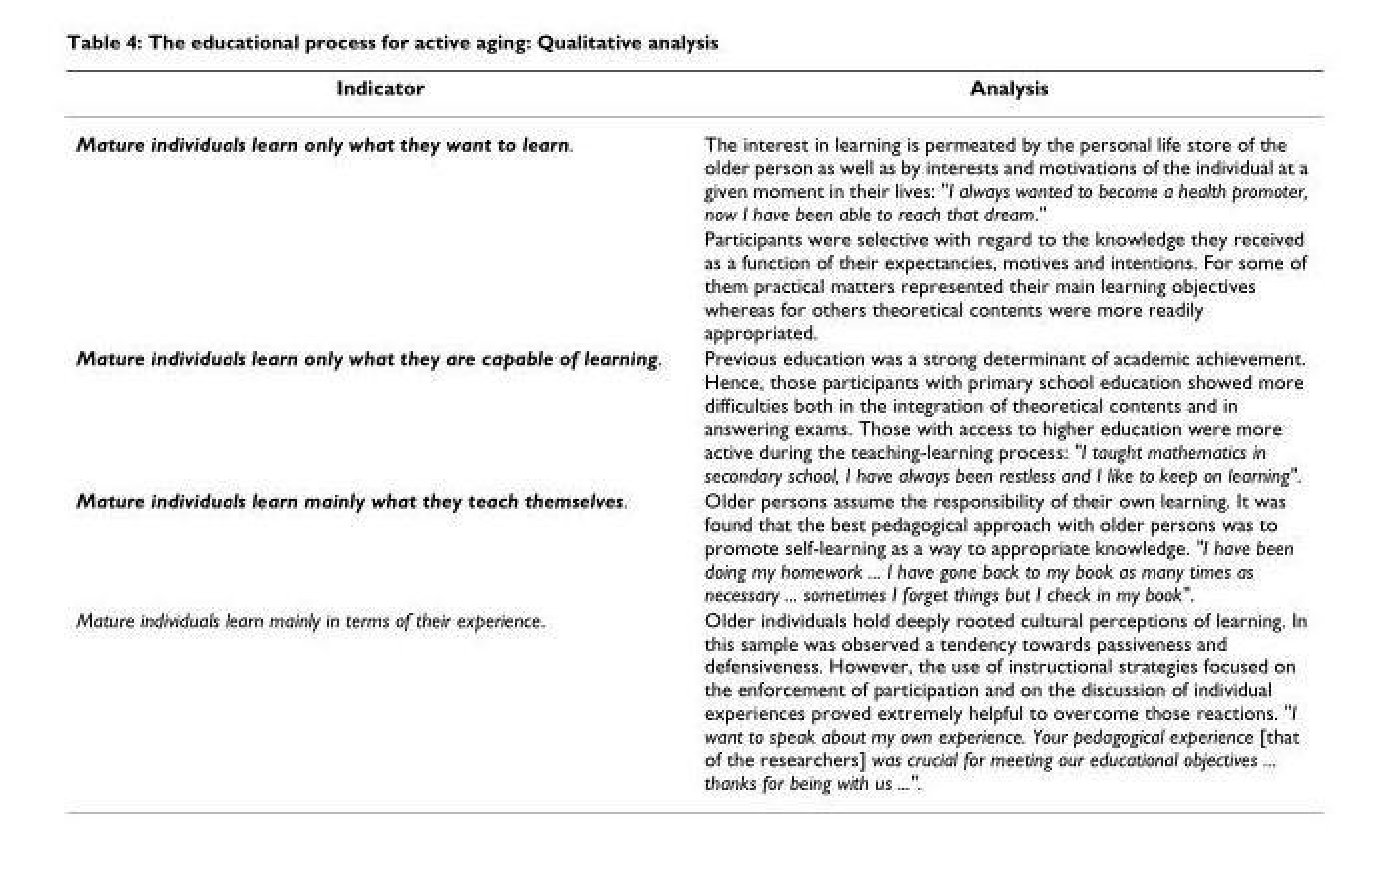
<table><thead><tr><td>Indicator</td><td>Analysis</td></tr></thead><tbody><tr><td rowspan="2">Mature individuals learn only what they want to learn.</td><td>The interest in learning is permeated by the personal life store of the older person as well as by interests and motivations of the individual at a given moment in their lives: &quot;I always wanted to become a health promoter, now I have been able to reach that dream.&quot;</td></tr><tr><td>Participants were selective with regard to the knowledge they received as a function of their expectancies, motives and intentions. For some of them practical matters represented their main learning objectives whereas for others theoretical contents were more readily appropriated.</td></tr><tr><td>Mature individuals learn only what they are capable of learning.</td><td>Previous education was a strong determinant of academic achievement. Hence, those participants with primary school education showed more difficulties both in the integration of theoretical contents and in answering exams. Those with access to higher education were more active during the teaching-learning process: &quot;I taught mathematics in secondary school, I have always been restless and I like to keep on learning&quot;.</td></tr><tr><td>Mature individuals learn mainly what they teach themselves.</td><td>Older persons assume the responsibility of their own learning. It was found that the best pedagogical approach with older persons was to promote self-learning as a way to appropriate knowledge. &quot;I have been doing my homework ... I have gone back to my book as many times as necessary ... sometimes I forget things but I check in my book&quot;.</td></tr><tr><td>Mature individuals learn mainly in terms of their experience.</td><td>Older individuals hold deeply rooted cultural perceptions of learning. In this sample was observed a tendency towards passiveness and defensiveness. However, the use of instructional strategies focused on the enforcement of participation and on the discussion of individual experiences proved extremely helpful to overcome those reactions. &quot;I want to speak about my own experience. Your pedagogical experience [that of the researchers] was crucial for meeting our educational objectives ... thanks for being with us ...&quot;.</td></tr></tbody></table>